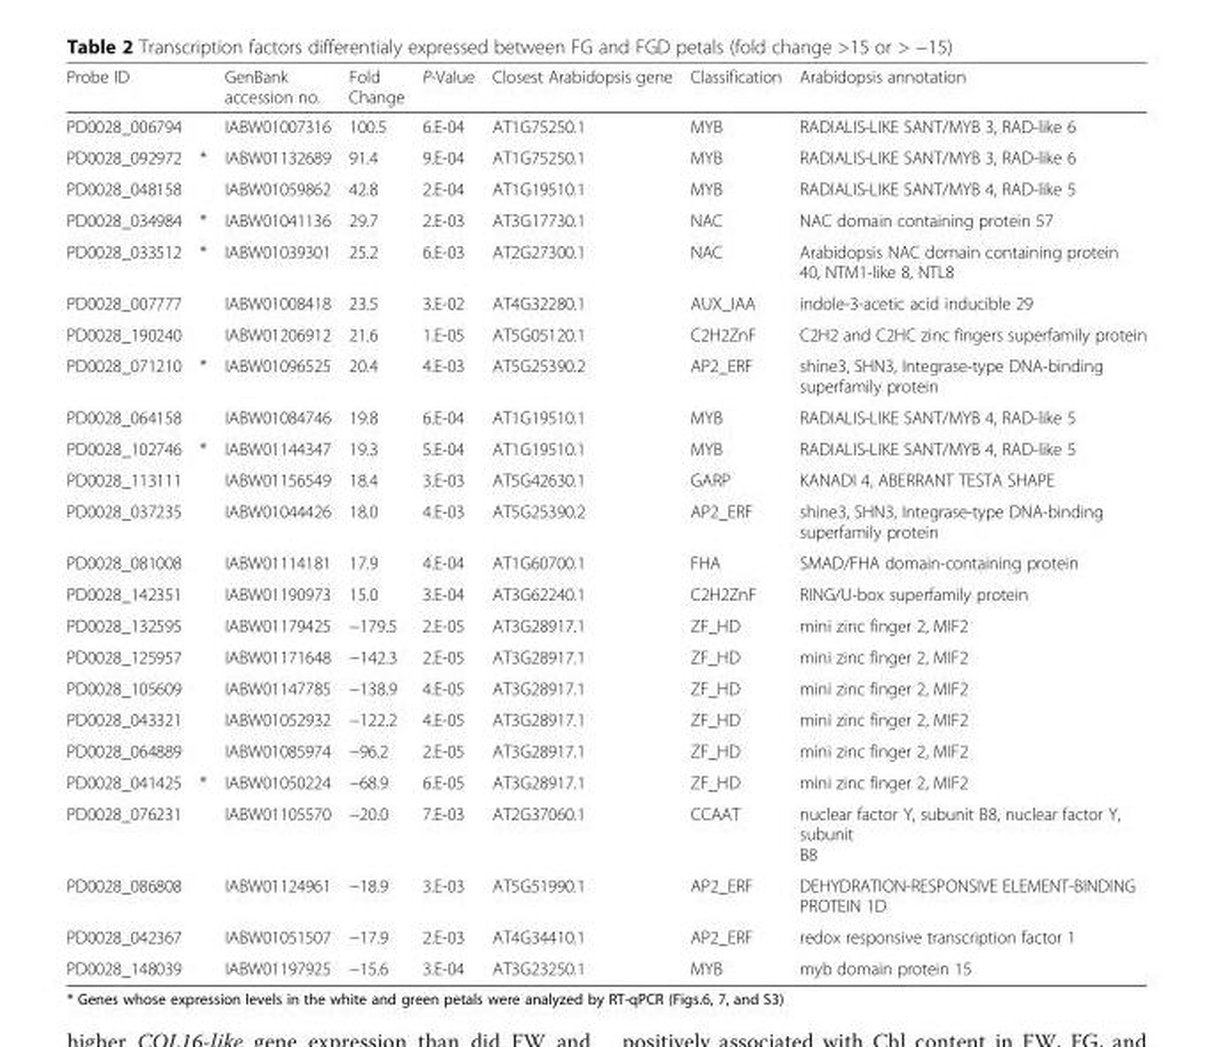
<table><thead><tr><td>Probe ID</td><td></td><td>GenBank accession no.</td><td>Fold Change</td><td>P-Value</td><td>Closest Arabidopsis gene</td><td>Classification</td><td>Arabidopsis annotation</td></tr></thead><tbody><tr><td>PD0028_006794</td><td></td><td>IABW01007316</td><td>100.5</td><td>6.E-04</td><td>AT1G75250.1</td><td>MYB</td><td>RADIALIS-LIKE SANT/MYB 3, RAD-like 6</td></tr><tr><td>PD0028_092972</td><td>*</td><td>IABW01132689</td><td>91.4</td><td>9.E-04</td><td>AT1G75250.1</td><td>MYB</td><td>RADIALIS-LIKE SANT/MYB 3, RAD-like 6</td></tr><tr><td>PD0028_048158</td><td></td><td>IABW01059862</td><td>42.8</td><td>2.E-04</td><td>AT1G19510.1</td><td>MYB</td><td>RADIALIS-LIKE SANT/MYB 4, RAD-like 5</td></tr><tr><td>PD0028_034984</td><td>*</td><td>IABW01041136</td><td>29.7</td><td>2.E-03</td><td>AT3G17730.1</td><td>NAC</td><td>NAC domain containing protein 57</td></tr><tr><td>PD0028_033512</td><td>*</td><td>IABW01039301</td><td>25.2</td><td>6.E-03</td><td>AT2G27300.1</td><td>NAC</td><td>Arabidopsis NAC domain containing protein 40, NTM1-like 8, NTL8</td></tr><tr><td>PD0028_007777</td><td></td><td>IABW01008418</td><td>23.5</td><td>3.E-02</td><td>AT4G32280.1</td><td>AUX_IAA</td><td>indole-3-acetic acid inducible 29</td></tr><tr><td>PD0028_190240</td><td></td><td>IABW01206912</td><td>21.6</td><td>1.E-05</td><td>AT5G05120.1</td><td>C2H2ZnF</td><td>C2H2 and C2HC zinc fingers superfamily protein</td></tr><tr><td>PD0028_071210</td><td>*</td><td>IABW01096525</td><td>20.4</td><td>4.E-03</td><td>AT5G25390.2</td><td>AP2_ERF</td><td>shine3, SHN3, Integrase-type DNA-binding superfamily protein</td></tr><tr><td>PD0028_064158</td><td></td><td>IABW01084746</td><td>19.8</td><td>6.E-04</td><td>AT1G19510.1</td><td>MYB</td><td>RADIALIS-LIKE SANT/MYB 4, RAD-like 5</td></tr><tr><td>PD0028_102746</td><td>*</td><td>IABW01144347</td><td>19.3</td><td>5.E-04</td><td>AT1G19510.1</td><td>MYB</td><td>RADIALIS-LIKE SANT/MYB 4, RAD-like 5</td></tr><tr><td>PD0028_113111</td><td></td><td>IABW01156549</td><td>18.4</td><td>3.E-03</td><td>AT5G42630.1</td><td>GARP</td><td>KANADI 4, ABERRANT TESTA SHAPE</td></tr><tr><td>PD0028_037235</td><td></td><td>IABW01044426</td><td>18.0</td><td>4.E-03</td><td>AT5G25390.2</td><td>AP2_ERF</td><td>shine3, SHN3, Integrase-type DNA-binding superfamily protein</td></tr><tr><td>PD0028_081008</td><td></td><td>IABW01114181</td><td>17.9</td><td>4.E-04</td><td>AT1G60700.1</td><td>FHA</td><td>SMAD/FHA domain-containing protein</td></tr><tr><td>PD0028_142351</td><td></td><td>IABW01190973</td><td>15.0</td><td>3.E-04</td><td>AT3G62240.1</td><td>C2H2ZnF</td><td>RING/U-box superfamily protein</td></tr><tr><td>PD0028_132595</td><td></td><td>IABW01179425</td><td>−179.5</td><td>2.E-05</td><td>AT3G28917.1</td><td>ZF_HD</td><td>mini zinc finger 2, MIF2</td></tr><tr><td>PD0028_125957</td><td></td><td>IABW01171648</td><td>−142.3</td><td>2.E-05</td><td>AT3G28917.1</td><td>ZF_HD</td><td>mini zinc finger 2, MIF2</td></tr><tr><td>PD0028_105609</td><td></td><td>IABW01147785</td><td>−138.9</td><td>4.E-05</td><td>AT3G28917.1</td><td>ZF_HD</td><td>mini zinc finger 2, MIF2</td></tr><tr><td>PD0028_043321</td><td></td><td>IABW01052932</td><td>−122.2</td><td>4.E-05</td><td>AT3G28917.1</td><td>ZF_HD</td><td>mini zinc finger 2, MIF2</td></tr><tr><td>PD0028_064889</td><td></td><td>IABW01085974</td><td>−96.2</td><td>2.E-05</td><td>AT3G28917.1</td><td>ZF_HD</td><td>mini zinc finger 2, MIF2</td></tr><tr><td>PD0028_041425</td><td>*</td><td>IABW01050224</td><td>−68.9</td><td>6.E-05</td><td>AT3G28917.1</td><td>ZF_HD</td><td>mini zinc finger 2, MIF2</td></tr><tr><td>PD0028_076231</td><td></td><td>IABW01105570</td><td>−20.0</td><td>7.E-03</td><td>AT2G37060.1</td><td>CCAAT</td><td>nuclear factor Y, subunit B8, nuclear factor Y, subunit B8</td></tr><tr><td>PD0028_086808</td><td></td><td>IABW01124961</td><td>−18.9</td><td>3.E-03</td><td>AT5G51990.1</td><td>AP2_ERF</td><td>DEHYDRATION-RESPONSIVE ELEMENT-BINDING PROTEIN 1D</td></tr><tr><td>PD0028_042367</td><td></td><td>IABW01051507</td><td>−17.9</td><td>2.E-03</td><td>AT4G34410.1</td><td>AP2_ERF</td><td>redox responsive transcription factor 1</td></tr><tr><td>PD0028_148039</td><td></td><td>IABW01197925</td><td>−15.6</td><td>3.E-04</td><td>AT3G23250.1</td><td>MYB</td><td>myb domain protein 15</td></tr></tbody></table>